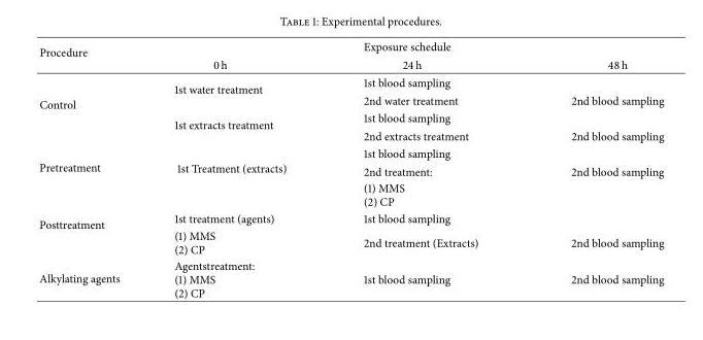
<table><thead><tr><td rowspan="2">Procedure</td><td rowspan="2">0 h</td><td rowspan="2">Exposure schedule 24 h</td><td rowspan="2">48 h</td></tr><tr></tr></thead><tbody><tr><td rowspan="4">Control</td><td rowspan="2">1st water treatment</td><td>1st blood sampling</td><td></td></tr><tr><td>2nd water treatment</td><td>2nd blood sampling</td></tr><tr><td rowspan="2">1st extracts treatment</td><td>1st blood sampling</td><td></td></tr><tr><td>2nd extracts treatment</td><td>2nd blood sampling</td></tr><tr><td rowspan="3">Pretreatment</td><td rowspan="3">1st Treatment (extracts)</td><td>1st blood sampling</td><td></td></tr><tr><td>2nd treatment:</td><td>2nd blood sampling</td></tr><tr><td>(1) MMS (2) CP</td><td></td></tr><tr><td rowspan="2">Posttreatment</td><td>1st treatment (agents)</td><td>1st blood sampling</td><td></td></tr><tr><td>(1) MMS (2) CP</td><td>2nd treatment (Extracts)</td><td>2nd blood sampling</td></tr><tr><td>Alkylating agents</td><td>Agentstreatment: (1) MMS (2) CP</td><td>1st blood sampling</td><td>2nd blood sampling</td></tr></tbody></table>